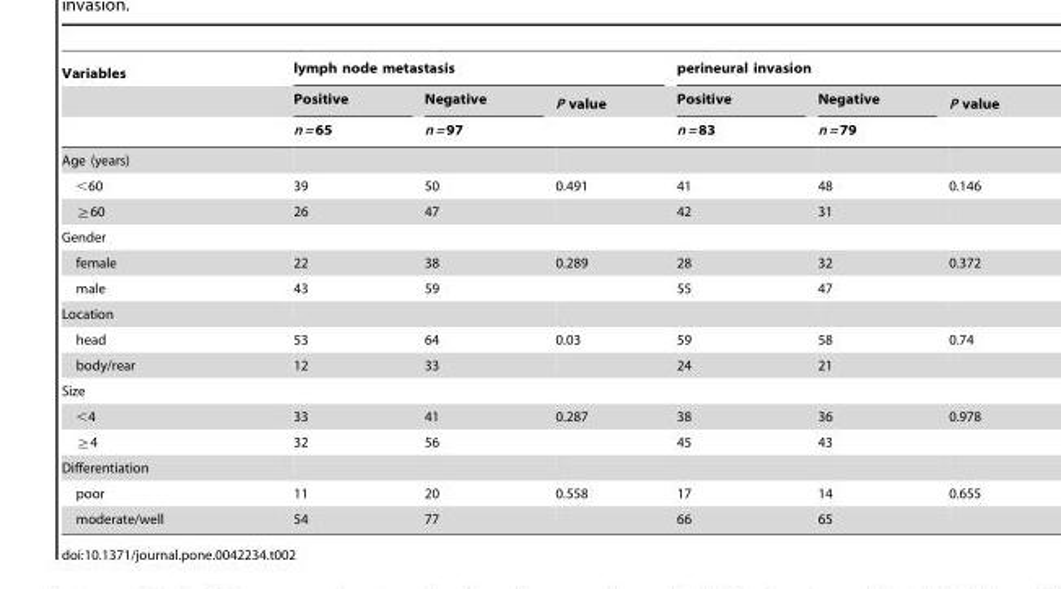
<table><thead><tr><td rowspan="3">Variables</td><td colspan="3">lymph node metastasis</td><td colspan="3">perineural invasion</td></tr><tr><td rowspan="2">Positive n = 65</td><td rowspan="2">Negative n = 97</td><td rowspan="2">P value</td><td rowspan="2">Positive n = 83</td><td rowspan="2">Negative n = 79</td><td rowspan="2">P value</td></tr><tr></tr></thead><tbody><tr><td colspan="7">Age (years)</td></tr><tr><td>&lt;60</td><td>39</td><td>50</td><td>0.491</td><td>41</td><td>48</td><td>0.146</td></tr><tr><td>≧60</td><td>26</td><td>47</td><td></td><td>42</td><td>31</td><td></td></tr><tr><td colspan="7">Gender</td></tr><tr><td>female</td><td>22</td><td>38</td><td>0.289</td><td>28</td><td>32</td><td>0.372</td></tr><tr><td>male</td><td>43</td><td>59</td><td></td><td>55</td><td>47</td><td></td></tr><tr><td colspan="7">Location</td></tr><tr><td>head</td><td>53</td><td>64</td><td>0.03</td><td>59</td><td>58</td><td>0.74</td></tr><tr><td>body/rear</td><td>12</td><td>33</td><td></td><td>24</td><td>21</td><td></td></tr><tr><td colspan="7">Size</td></tr><tr><td>&lt;4</td><td>33</td><td>41</td><td>0.287</td><td>38</td><td>36</td><td>0.978</td></tr><tr><td>≧4</td><td>32</td><td>56</td><td></td><td>45</td><td>43</td><td></td></tr><tr><td colspan="7">Differentiation</td></tr><tr><td>poor</td><td>11</td><td>20</td><td>0.558</td><td>17</td><td>14</td><td>0.655</td></tr><tr><td>moderate/well</td><td>54</td><td>77</td><td></td><td>66</td><td>65</td><td></td></tr></tbody></table>